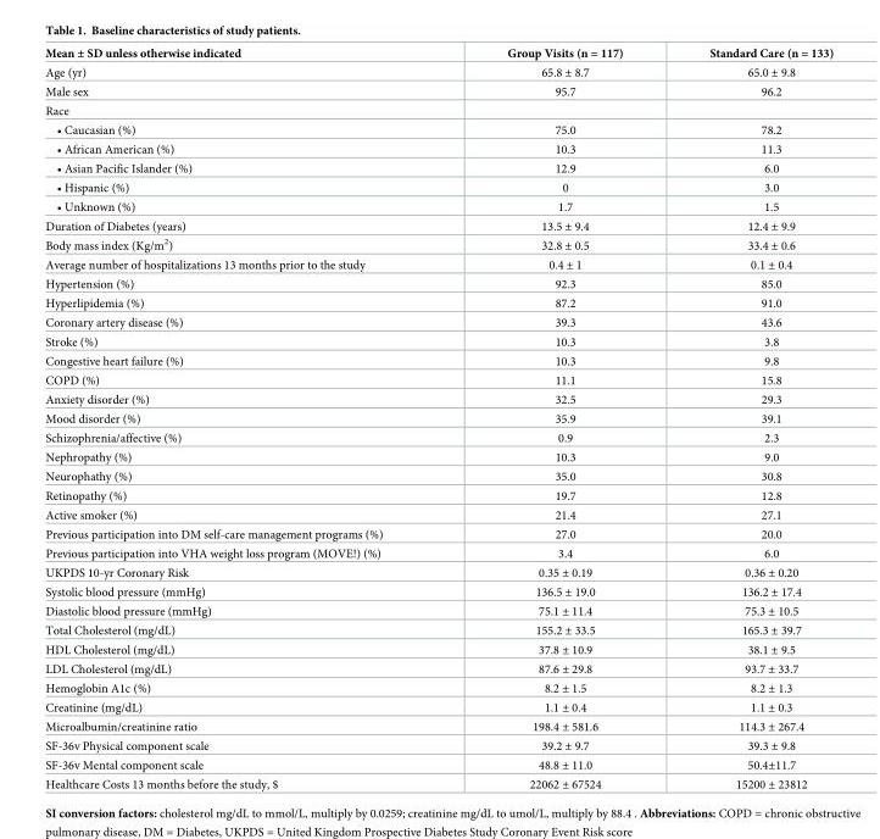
<table><thead><tr><td>Mean ± SD unless otherwise indicated</td><td>Group Visits (n = 117)</td><td>Standard Care (n = 133)</td></tr></thead><tbody><tr><td>Age (yr)</td><td>65.8 ± 8.7</td><td>65.0 ± 9.8</td></tr><tr><td>Male sex</td><td>95.7</td><td>96.2</td></tr><tr><td colspan="3">Race</td></tr><tr><td>• Caucasian (%)</td><td>75.0</td><td>78.2</td></tr><tr><td>• African American (%)</td><td>10.3</td><td>11.3</td></tr><tr><td>• Asian Pacific Islander (%)</td><td>12.9</td><td>6.0</td></tr><tr><td>• Hispanic (%)</td><td>0</td><td>3.0</td></tr><tr><td>• Unknown (%)</td><td>1.7</td><td>1.5</td></tr><tr><td>Duration of Diabetes (years)</td><td>13.5 ± 9.4</td><td>12.4 ± 9.9</td></tr><tr><td>Body mass index (Kg/m<sup>2</sup>)</td><td>32.8 ± 0.5</td><td>33.4 ± 0.6</td></tr><tr><td>Average number of hospitalizations 13 months prior to the study</td><td>0.4 ± 1</td><td>0.1 ± 0.4</td></tr><tr><td>Hypertension (%)</td><td>92.3</td><td>85.0</td></tr><tr><td>Hyperlipidemia (%)</td><td>87.2</td><td>91.0</td></tr><tr><td>Coronary artery disease (%)</td><td>39.3</td><td>43.6</td></tr><tr><td>Stroke (%)</td><td>10.3</td><td>3.8</td></tr><tr><td>Congestive heart failure (%)</td><td>10.3</td><td>9.8</td></tr><tr><td>COPD (%)</td><td>11.1</td><td>15.8</td></tr><tr><td>Anxiety disorder (%)</td><td>32.5</td><td>29.3</td></tr><tr><td>Mood disorder (%)</td><td>35.9</td><td>39.1</td></tr><tr><td>Schizophrenia/affective (%)</td><td>0.9</td><td>2.3</td></tr><tr><td>Nephropathy (%)</td><td>10.3</td><td>9.0</td></tr><tr><td>Neurophathy (%)</td><td>35.0</td><td>30.8</td></tr><tr><td>Retinopathy (%)</td><td>19.7</td><td>12.8</td></tr><tr><td>Active smoker (%)</td><td>21.4</td><td>27.1</td></tr><tr><td>Previous participation into DM self-care management programs (%)</td><td>27.0</td><td>20.0</td></tr><tr><td>Previous participation into VHA weight loss program (MOVE!) (%)</td><td>3.4</td><td>6.0</td></tr><tr><td>UKPDS 10-yr Coronary Risk</td><td>0.35 ± 0.19</td><td>0.36 ± 0.20</td></tr><tr><td>Systolic blood pressure (mmHg)</td><td>136.5 ± 19.0</td><td>136.2 ± 17.4</td></tr><tr><td>Diastolic blood pressure (mmHg)</td><td>75.1 ± 11.4</td><td>75.3 ± 10.5</td></tr><tr><td>Total Cholesterol (mg/dL)</td><td>155.2 ± 33.5</td><td>165.3 ± 39.7</td></tr><tr><td>HDL Cholesterol (mg/dL)</td><td>37.8 ± 10.9</td><td>38.1 ± 9.5</td></tr><tr><td>LDL Cholesterol (mg/dL)</td><td>87.6 ± 29.8</td><td>93.7 ± 33.7</td></tr><tr><td>Hemoglobin A1c (%)</td><td>8.2 ± 1.5</td><td>8.2 ± 1.3</td></tr><tr><td>Creatinine (mg/dL)</td><td>1.1 ± 0.4</td><td>1.1 ± 0.3</td></tr><tr><td>Microalbumin/creatinine ratio</td><td>198.4 ± 581.6</td><td>114.3 ± 267.4</td></tr><tr><td>SF-36v Physical component scale</td><td>39.2 ± 9.7</td><td>39.3 ± 9.8</td></tr><tr><td>SF-36v Mental component scale</td><td>48.8 ± 11.0</td><td>50.4±11.7</td></tr><tr><td>Healthcare Costs 13 months before the study, $</td><td>22062 ± 67524</td><td>15200 ± 23812</td></tr></tbody></table>